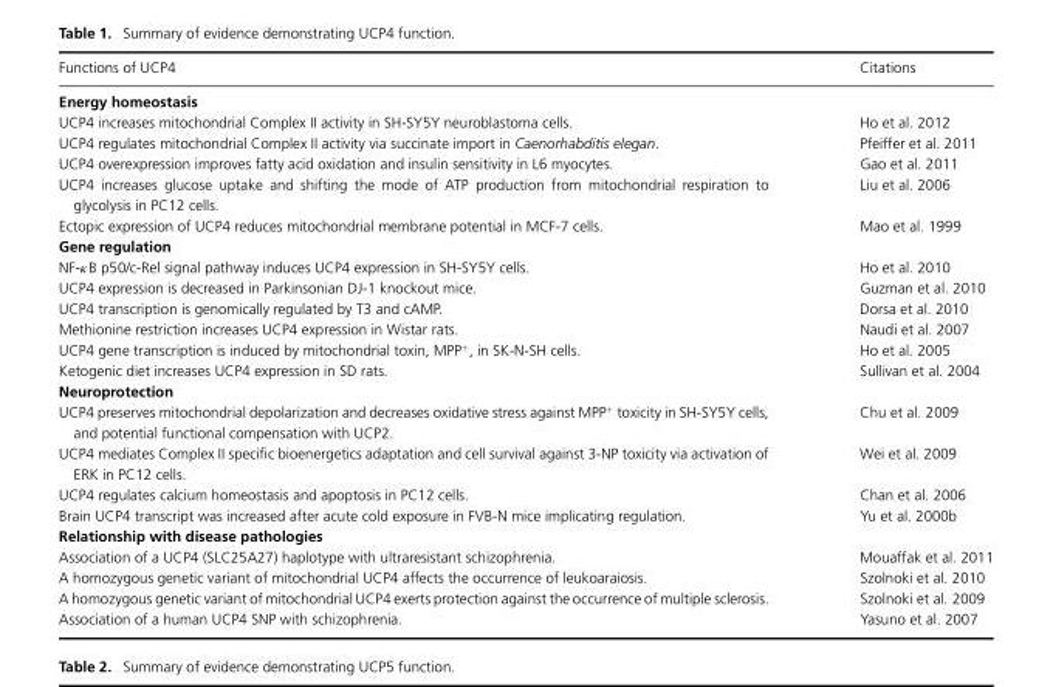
<table><thead><tr><td>Functions of UCP4</td><td>Citations</td></tr></thead><tbody><tr><td colspan="2">Energy homeostasis</td></tr><tr><td>UCP4 increases mitochondrial Complex II activity in SH-SY5Y neuroblastoma cells.</td><td>Ho et al. 2012</td></tr><tr><td>UCP4 regulates mitochondrial Complex II activity via succinate import in Caenorhabditis elegan.</td><td>Pfeiffer et al. 2011</td></tr><tr><td>UCP4 overexpression improves fatty acid oxidation and insulin sensitivity in L6 myocytes.</td><td>Gao et al. 2011</td></tr><tr><td>UCP4 increases glucose uptake and shifting the mode of ATP production from mitochondrial respiration to glycolysis in PC12 cells.</td><td>Liu et al. 2006</td></tr><tr><td>Ectopic expression of UCP4 reduces mitochondrial membrane potential in MCF-7 cells.</td><td>Mao et al. 1999</td></tr><tr><td colspan="2">Gene regulation</td></tr><tr><td>NF-κB p50/c-Rel signal pathway induces UCP4 expression in SH-SY5Y cells.</td><td>Ho et al. 2010</td></tr><tr><td>UCP4 expression is decreased in Parkinsonian DJ-1 knockout mice.</td><td>Guzman et al. 2010</td></tr><tr><td>UCP4 transcription is genomically regulated by T3 and cAMP.</td><td>Dorsa et al. 2010</td></tr><tr><td>Methionine restriction increases UCP4 expression in Wistar rats.</td><td>Naudi et al. 2007</td></tr><tr><td>UCP4 gene transcription is induced by mitochondrial toxin, MPP<sup>+</sup>, in SK-N-SH cells.</td><td>Ho et al. 2005</td></tr><tr><td>Ketogenic diet increases UCP4 expression in SD rats.</td><td>Sullivan et al. 2004</td></tr><tr><td colspan="2">Neuroprotection</td></tr><tr><td>UCP4 preserves mitochondrial depolarization and decreases oxidative stress against MPP<sup>+</sup> toxicity in SH-SY5Y cells, and potential functional compensation with UCP2.</td><td>Chu et al. 2009</td></tr><tr><td>UCP4 mediates Complex II specific bioenergetics adaptation and cell survival against 3-NP toxicity via activation of ERK in PC12 cells.</td><td>Wei et al. 2009</td></tr><tr><td>UCP4 regulates calcium homeostasis and apoptosis in PC12 cells.</td><td>Chan et al. 2006</td></tr><tr><td>Brain UCP4 transcript was increased after acute cold exposure in FVB-N mice implicating regulation.</td><td>Yu et al. 2000b</td></tr><tr><td colspan="2">Relationship with disease pathologies</td></tr><tr><td>Association of a UCP4 (SLC25A27) haplotype with ultraresistant schizophrenia.</td><td>Mouaffak et al. 2011</td></tr><tr><td>A homozygous genetic variant of mitochondrial UCP4 affects the occurrence of leukoaraiosis.</td><td>Szolnoki et al. 2010</td></tr><tr><td>A homozygous genetic variant of mitochondrial UCP4 exerts protection against the occurrence of multiple sclerosis.</td><td>Szolnoki et al. 2009</td></tr><tr><td>Association of a human UCP4 SNP with schizophrenia.</td><td>Yasuno et al. 2007</td></tr></tbody></table>